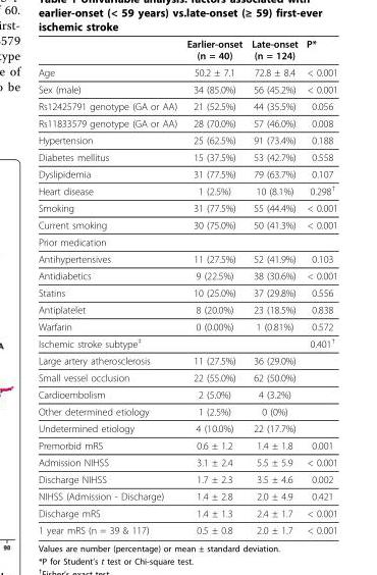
<table><thead><tr><td></td><td>Earlier-onset (n = 40)</td><td>Late-onset (n = 124)</td><td>P*</td></tr></thead><tbody><tr><td>Age</td><td>50.2 ± 7.1</td><td>72.8 ± 8.4</td><td>&lt; 0.001</td></tr><tr><td>Sex (male)</td><td>34 (85.0%)</td><td>56 (45.2%)</td><td>&lt; 0.001</td></tr><tr><td>Rs12425791 genotype (GA or AA)</td><td>21 (52.5%)</td><td>44 (35.5%)</td><td>0.056</td></tr><tr><td>Rs11833579 genotype (GA or AA)</td><td>28 (70.0%)</td><td>57 (46.0%)</td><td>0.008</td></tr><tr><td>Hypertension</td><td>25 (62.5%)</td><td>91 (73.4%)</td><td>0.188</td></tr><tr><td>Diabetes mellitus</td><td>15 (37.5%)</td><td>53 (42.7%)</td><td>0.558</td></tr><tr><td>Dyslipidemia</td><td>31 (77.5%)</td><td>79 (63.7%)</td><td>0.107</td></tr><tr><td>Heart disease</td><td>1 (2.5%)</td><td>10 (8.1%)</td><td>0.298<sup>†</sup></td></tr><tr><td>Smoking</td><td>31 (77.5%)</td><td>55 (44.4%)</td><td>&lt; 0.001</td></tr><tr><td>Current smoking</td><td>30 (75.0%)</td><td>50 (41.3%)</td><td>&lt; 0.001</td></tr><tr><td colspan="4">Prior medication</td></tr><tr><td>Antihypertensives</td><td>11 (27.5%)</td><td>52 (41.9%)</td><td>0.103</td></tr><tr><td>Antidiabetics</td><td>9 (22.5%)</td><td>38 (30.6%)</td><td>&lt; 0.001</td></tr><tr><td>Statins</td><td>10 (25.0%)</td><td>37 (29.8%)</td><td>0.556</td></tr><tr><td>Antiplatelet</td><td>8 (20.0%)</td><td>23 (18.5%)</td><td>0.838</td></tr><tr><td>Warfarin</td><td>0 (0.00%)</td><td>1 (0.81%)</td><td>0.572</td></tr><tr><td>Ischemic stroke subtype<sup>‡</sup></td><td></td><td></td><td>0.401<sup>†</sup></td></tr><tr><td>Large artery atherosclerosis</td><td>11 (27.5%)</td><td>36 (29.0%)</td><td></td></tr><tr><td>Small vessel occlusion</td><td>22 (55.0%)</td><td>62 (50.0%)</td><td></td></tr><tr><td>Cardioembolism</td><td>2 (5.0%)</td><td>4 (3.2%)</td><td></td></tr><tr><td>Other determined etiology</td><td>1 (2.5%)</td><td>0 (0%)</td><td></td></tr><tr><td>Undetermined etiology</td><td>4 (10.0%)</td><td>22 (17.7%)</td><td></td></tr><tr><td>Premorbid mRS</td><td>0.6 ± 1.2</td><td>1.4 ± 1.8</td><td>0.001</td></tr><tr><td>Admission NIHSS</td><td>3.1 ± 2.4</td><td>5.5 ± 5.9</td><td>&lt; 0.001</td></tr><tr><td>Discharge NIHSS</td><td>1.7 ± 2.3</td><td>3.5 ± 4.6</td><td>0.002</td></tr><tr><td>NIHSS (Admission - Discharge)</td><td>1.4 ± 2.8</td><td>2.0 ± 4.9</td><td>0.421</td></tr><tr><td>Discharge mRS</td><td>1.4 ± 1.3</td><td>2.4 ± 1.7</td><td>&lt; 0.001</td></tr><tr><td>1 year mRS (n = 39 &amp; 117)</td><td>0.5 ± 0.8</td><td>2.0 ± 1.7</td><td>&lt; 0.001</td></tr></tbody></table>